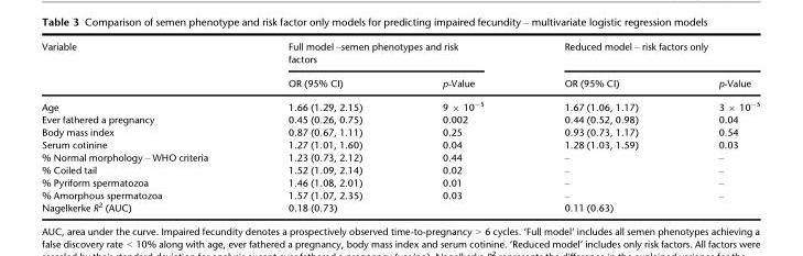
<table><thead><tr><td rowspan="2">Variable</td><td colspan="2">Full model –semen phenotypes and risk factors</td><td colspan="2">Reduced model – risk factors only</td></tr><tr><td>OR (95% CI)</td><td>p-Value</td><td>OR (95% CI)</td><td>p-Value</td></tr></thead><tbody><tr><td>Age</td><td>1.66 (1.29, 2.15)</td><td>9 × 10<sup>−5</sup></td><td>1.67 (1.06, 1.17)</td><td>3 × 10<sup>−5</sup></td></tr><tr><td>Ever fathered a pregnancy</td><td>0.45 (0.26, 0.75)</td><td>0.002</td><td>0.44 (0.52, 0.98)</td><td>0.04</td></tr><tr><td>Body mass index</td><td>0.87 (0.67, 1.11)</td><td>0.25</td><td>0.93 (0.73, 1.17)</td><td>0.54</td></tr><tr><td>Serum cotinine</td><td>1.27 (1.01, 1.60)</td><td>0.04</td><td>1.28 (1.03, 1.59)</td><td>0.03</td></tr><tr><td>% Normal morphology – WHO criteria</td><td>1.23 (0.73, 2.12)</td><td>0.44</td><td>–</td><td>–</td></tr><tr><td>% Coiled tail</td><td>1.52 (1.09, 2.14)</td><td>0.02</td><td>–</td><td>–</td></tr><tr><td>% Pyriform spermatozoa</td><td>1.46 (1.08, 2.01)</td><td>0.01</td><td>–</td><td>–</td></tr><tr><td>% Amorphous spermatozoa</td><td>1.57 (1.07, 2.35)</td><td>0.03</td><td>–</td><td>–</td></tr><tr><td>Nagelkerke R<sup>2</sup> (AUC)</td><td>0.18 (0.73)</td><td></td><td>0.11 (0.63)</td><td></td></tr></tbody></table>